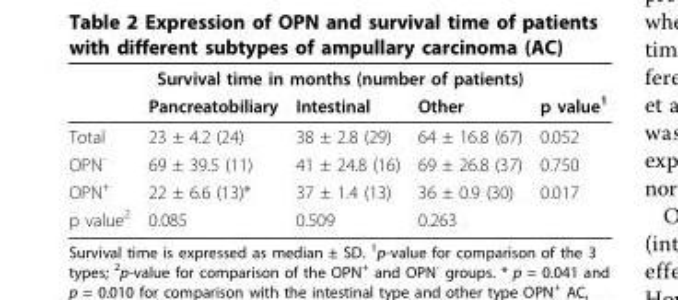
<table><thead><tr><td colspan="5">Survival time in months (number of patients)</td></tr><tr><td></td><td>Pancreatobiliary</td><td>Intestinal</td><td>Other</td><td>p value<sup>1</sup></td></tr></thead><tbody><tr><td>Total</td><td>23 ± 4.2 (24)</td><td>38 ± 2.8 (29)</td><td>64 ± 16.8 (67)</td><td>0.052</td></tr><tr><td>OPN<sup>-</sup></td><td>69 ± 39.5 (11)</td><td>41 ± 24.8 (16)</td><td>69 ± 26.8 (37)</td><td>0.750</td></tr><tr><td>OPN<sup>+</sup></td><td>22 ± 6.6 (13)*</td><td>37 ± 1.4 (13)</td><td>36 ± 0.9 (30)</td><td>0.017</td></tr><tr><td>p value<sup>2</sup></td><td>0.085</td><td>0.509</td><td>0.263</td><td></td></tr></tbody></table>